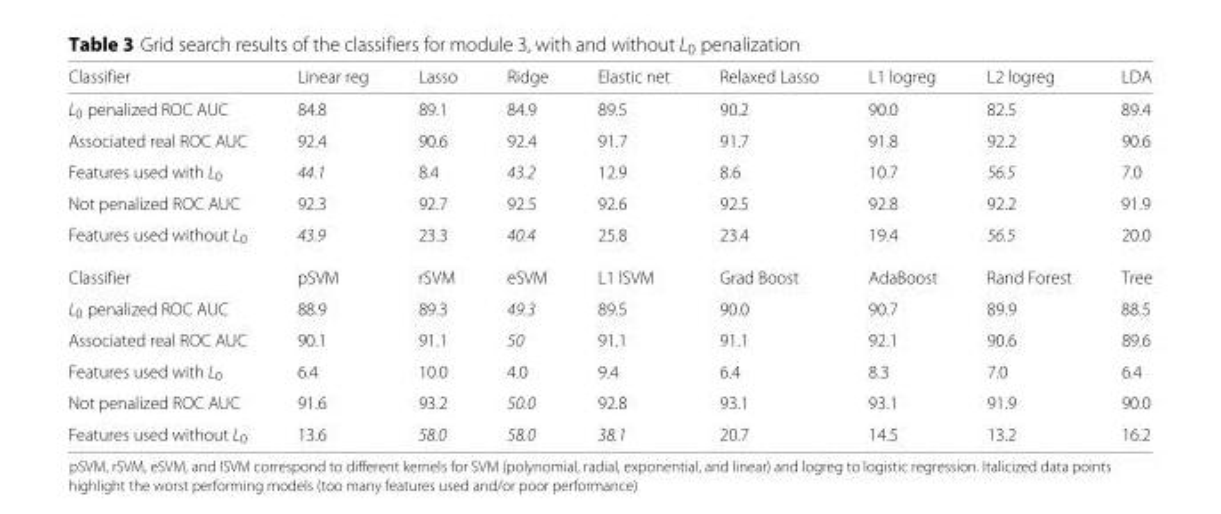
<table><thead><tr><td>Classifier</td><td>Linear reg</td><td>Lasso</td><td>Ridge</td><td>Elastic net</td><td>Relaxed Lasso</td><td>L1 logreg</td><td>L2 logreg</td><td>LDA</td></tr></thead><tbody><tr><td>L<sub>0</sub> penalized ROC AUC</td><td>84.8</td><td>89.1</td><td>84.9</td><td>89.5</td><td>90.2</td><td>90.0</td><td>82.5</td><td>89.4</td></tr><tr><td>Associated real ROC AUC</td><td>92.4</td><td>90.6</td><td>92.4</td><td>91.7</td><td>91.7</td><td>91.8</td><td>92.2</td><td>90.6</td></tr><tr><td>Features used with L<sub>0</sub></td><td>44.1</td><td>8.4</td><td>43.2</td><td>12.9</td><td>8.6</td><td>10.7</td><td>56.5</td><td>7.0</td></tr><tr><td>Not penalized ROC AUC</td><td>92.3</td><td>92.7</td><td>92.5</td><td>92.6</td><td>92.5</td><td>92.8</td><td>92.2</td><td>91.9</td></tr><tr><td>Features used without L<sub>0</sub></td><td>43.9</td><td>23.3</td><td>40.4</td><td>25.8</td><td>23.4</td><td>19.4</td><td>56.5</td><td>20.0</td></tr><tr><td>Classifier</td><td>pSVM</td><td>rSVM</td><td>eSVM</td><td>L1 lSVM</td><td>Grad Boost</td><td>AdaBoost</td><td>Rand Forest</td><td>Tree</td></tr><tr><td>L<sub>0</sub> penalized ROC AUC</td><td>88.9</td><td>89.3</td><td>49.3</td><td>89.5</td><td>90.0</td><td>90.7</td><td>89.9</td><td>88.5</td></tr><tr><td>Associated real ROC AUC</td><td>90.1</td><td>91.1</td><td>50</td><td>91.1</td><td>91.1</td><td>92.1</td><td>90.6</td><td>89.6</td></tr><tr><td>Features used with L<sub>0</sub></td><td>6.4</td><td>10.0</td><td>4.0</td><td>9.4</td><td>6.4</td><td>8.3</td><td>7.0</td><td>6.4</td></tr><tr><td>Not penalized ROC AUC</td><td>91.6</td><td>93.2</td><td>50.0</td><td>92.8</td><td>93.1</td><td>93.1</td><td>91.9</td><td>90.0</td></tr><tr><td>Features used without L<sub>0</sub></td><td>13.6</td><td>58.0</td><td>58.0</td><td>38.1</td><td>20.7</td><td>14.5</td><td>13.2</td><td>16.2</td></tr></tbody></table>